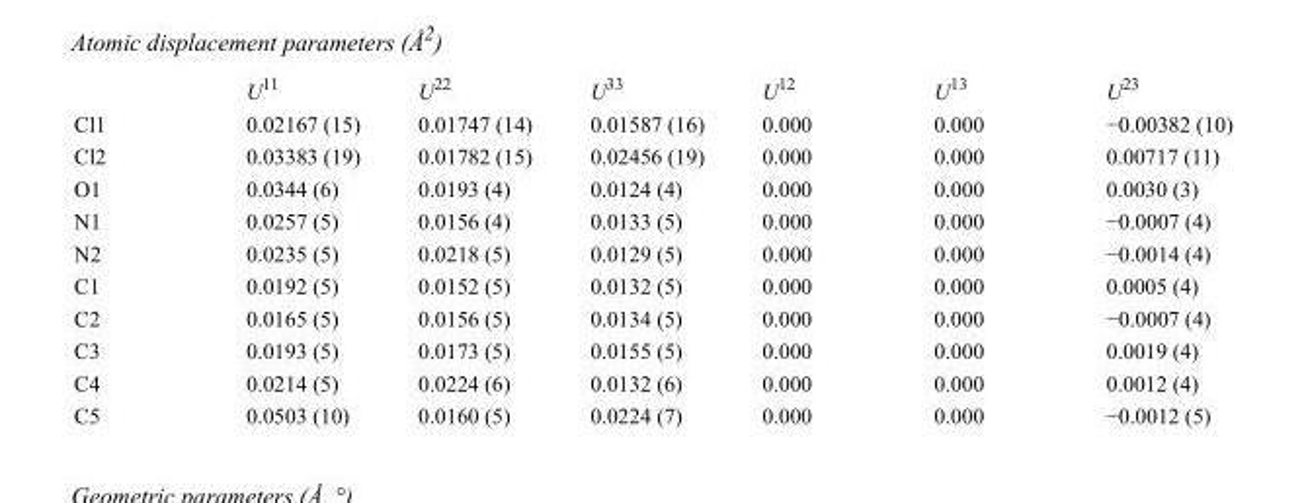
<table><thead><tr><td></td><td>U<sup>11</sup></td><td>U<sup>22</sup></td><td>U<sup>33</sup></td><td>U<sup>12</sup></td><td>U<sup>13</sup></td><td>U<sup>23</sup></td></tr></thead><tbody><tr><td>Cl1</td><td>0.02167 (15)</td><td>0.01747 (14)</td><td>0.01587 (16)</td><td>0.000</td><td>0.000</td><td>−0.00382 (10)</td></tr><tr><td>Cl2</td><td>0.03383 (19)</td><td>0.01782 (15)</td><td>0.02456 (19)</td><td>0.000</td><td>0.000</td><td>0.00717 (11)</td></tr><tr><td>O1</td><td>0.0344 (6)</td><td>0.0193 (4)</td><td>0.0124 (4)</td><td>0.000</td><td>0.000</td><td>0.0030 (3)</td></tr><tr><td>N1</td><td>0.0257 (5)</td><td>0.0156 (4)</td><td>0.0133 (5)</td><td>0.000</td><td>0.000</td><td>−0.0007 (4)</td></tr><tr><td>N2</td><td>0.0235 (5)</td><td>0.0218 (5)</td><td>0.0129 (5)</td><td>0.000</td><td>0.000</td><td>−0.0014 (4)</td></tr><tr><td>C1</td><td>0.0192 (5)</td><td>0.0152 (5)</td><td>0.0132 (5)</td><td>0.000</td><td>0.000</td><td>0.0005 (4)</td></tr><tr><td>C2</td><td>0.0165 (5)</td><td>0.0156 (5)</td><td>0.0134 (5)</td><td>0.000</td><td>0.000</td><td>−0.0007 (4)</td></tr><tr><td>C3</td><td>0.0193 (5)</td><td>0.0173 (5)</td><td>0.0155 (5)</td><td>0.000</td><td>0.000</td><td>0.0019 (4)</td></tr><tr><td>C4</td><td>0.0214 (5)</td><td>0.0224 (6)</td><td>0.0132 (6)</td><td>0.000</td><td>0.000</td><td>0.0012 (4)</td></tr><tr><td>C5</td><td>0.0503 (10)</td><td>0.0160 (5)</td><td>0.0224 (7)</td><td>0.000</td><td>0.000</td><td>−0.0012 (5)</td></tr></tbody></table>